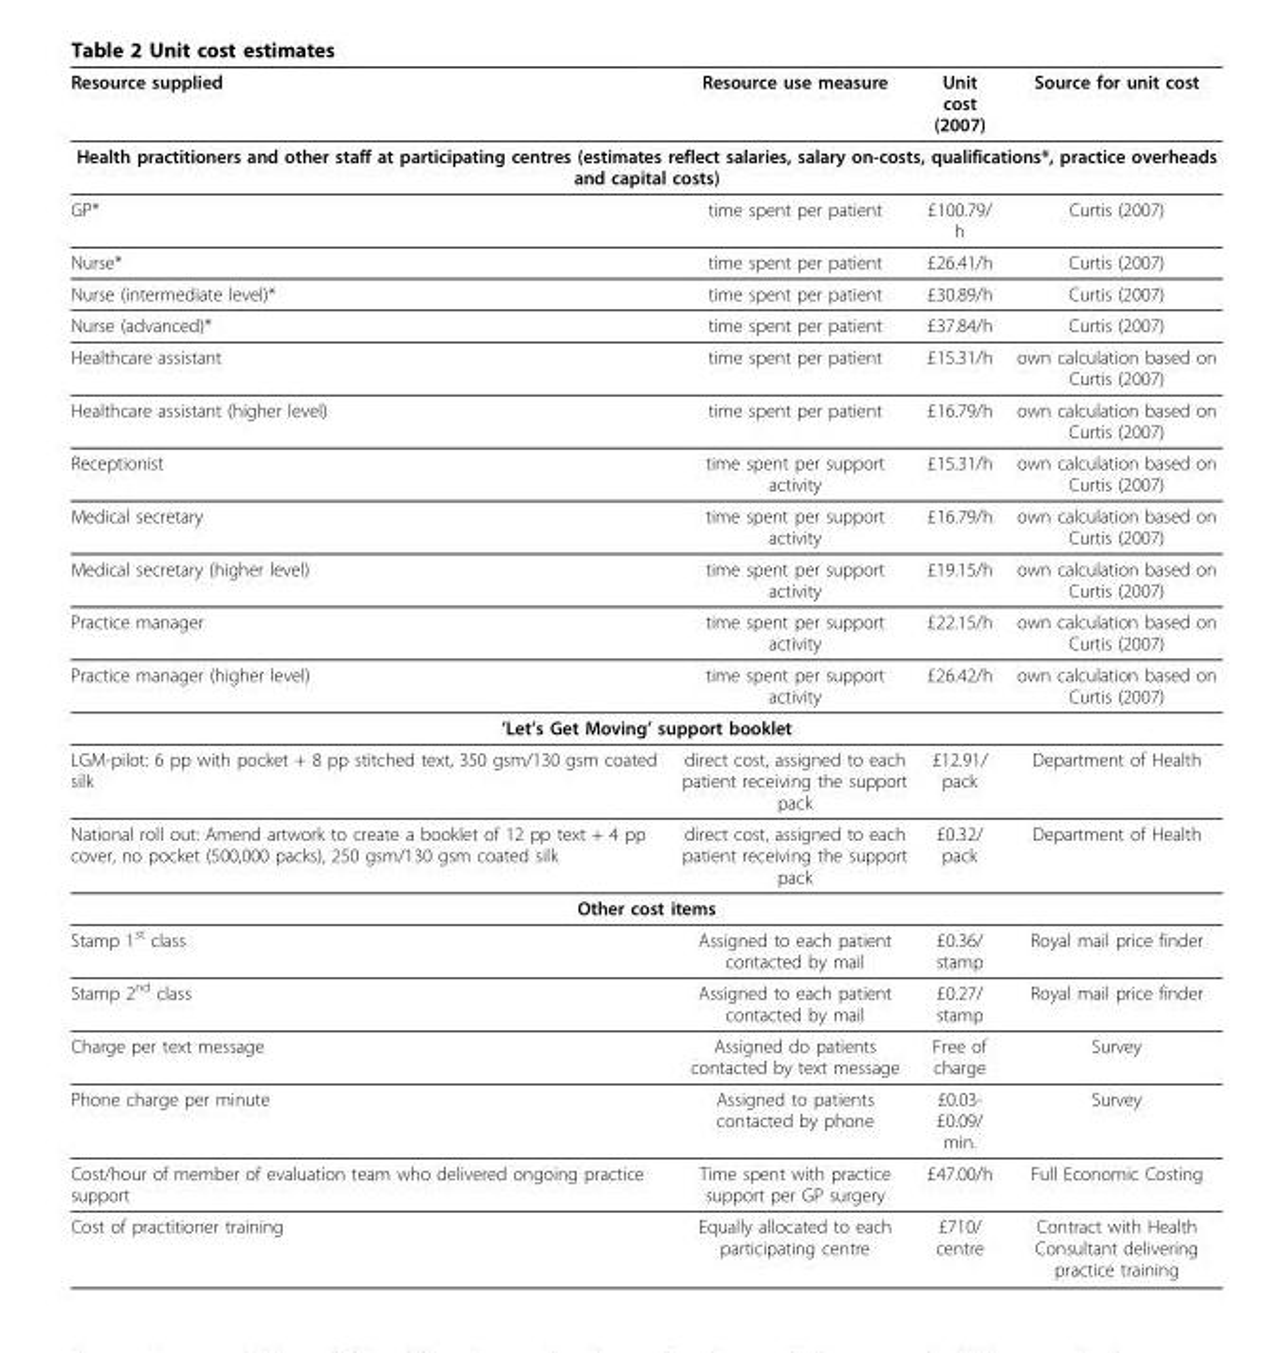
<table><thead><tr><td>Resource supplied</td><td>Resource use measure</td><td>Unit cost (2007)</td><td>Source for unit cost</td></tr></thead><tbody><tr><td colspan="4">Health practitioners and other staff at participating centres (estimates reflect salaries, salary on-costs, qualifications*, practice overheads and capital costs)</td></tr><tr><td>GP*</td><td>time spent per patient</td><td>£100.79/ h</td><td>Curtis (2007)</td></tr><tr><td>Nurse*</td><td>time spent per patient</td><td>£26.41/h</td><td>Curtis (2007)</td></tr><tr><td>Nurse (intermediate level)*</td><td>time spent per patient</td><td>£30.89/h</td><td>Curtis (2007)</td></tr><tr><td>Nurse (advanced)*</td><td>time spent per patient</td><td>£37.84/h</td><td>Curtis (2007)</td></tr><tr><td>Healthcare assistant</td><td>time spent per patient</td><td>£15.31/h</td><td>own calculation based on Curtis (2007)</td></tr><tr><td>Healthcare assistant (higher level)</td><td>time spent per patient</td><td>£16.79/h</td><td>own calculation based on Curtis (2007)</td></tr><tr><td>Receptionist</td><td>time spent per support activity</td><td>£15.31/h</td><td>own calculation based on Curtis (2007)</td></tr><tr><td>Medical secretary</td><td>time spent per support activity</td><td>£16.79/h</td><td>own calculation based on Curtis (2007)</td></tr><tr><td>Medical secretary (higher level)</td><td>time spent per support activity</td><td>£19.15/h</td><td>own calculation based on Curtis (2007)</td></tr><tr><td>Practice manager</td><td>time spent per support activity</td><td>£22.15/h</td><td>own calculation based on Curtis (2007)</td></tr><tr><td>Practice manager (higher level)</td><td>time spent per support activity</td><td>£26.42/h</td><td>own calculation based on Curtis (2007)</td></tr><tr><td colspan="4">’Let’s Get Moving’ support booklet</td></tr><tr><td>LGM-pilot: 6 pp with pocket + 8 pp stitched text, 350 gsm/130 gsm coated silk</td><td>direct cost, assigned to each patient receiving the support pack</td><td>£12.91/ pack</td><td>Department of Health</td></tr><tr><td>National roll out: Amend artwork to create a booklet of 12 pp text + 4 pp cover, no pocket (500,000 packs), 250 gsm/130 gsm coated silk</td><td>direct cost, assigned to each patient receiving the support pack</td><td>£0.32/ pack</td><td>Department of Health</td></tr><tr><td colspan="4">Other cost items</td></tr><tr><td>Stamp 1<sup>st</sup> class</td><td>Assigned to each patient contacted by mail</td><td>£0.36/ stamp</td><td>Royal mail price finder</td></tr><tr><td>Stamp 2<sup>nd</sup> class</td><td>Assigned to each patient contacted by mail</td><td>£0.27/ stamp</td><td>Royal mail price finder</td></tr><tr><td>Charge per text message</td><td>Assigned do patients contacted by text message</td><td>Free of charge</td><td>Survey</td></tr><tr><td>Phone charge per minute</td><td>Assigned to patients contacted by phone</td><td>£0.03- £0.09/ min.</td><td>Survey</td></tr><tr><td>Cost/hour of member of evaluation team who delivered ongoing practice support</td><td>Time spent with practice support per GP surgery</td><td>£47.00/h</td><td>Full Economic Costing</td></tr><tr><td>Cost of practitioner training</td><td>Equally allocated to each participating centre</td><td>£710/ centre</td><td>Contract with Health Consultant delivering practice training</td></tr></tbody></table>